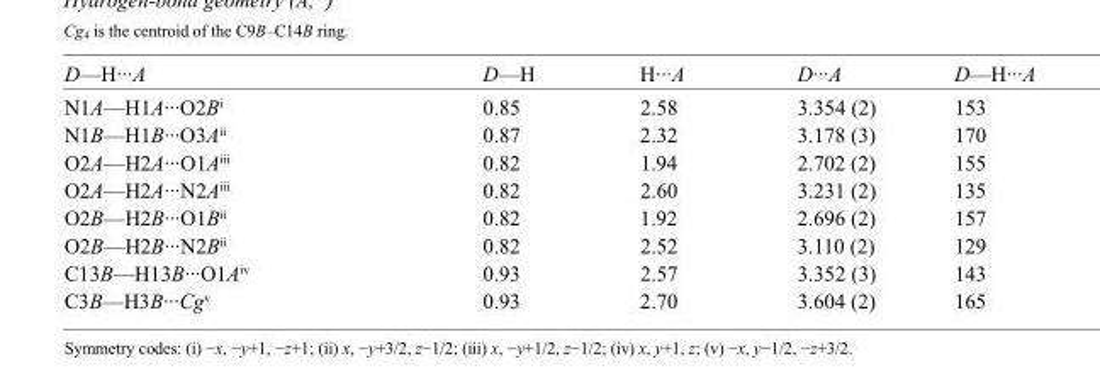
<table><tbody><tr><td>D—H···A</td><td>D—H</td><td>H···A</td><td>D···A</td><td>D—H···A</td></tr><tr><td>N1A—H1A···O2B<sup>i</sup></td><td>0.85</td><td>2.58</td><td>3.354 (2)</td><td>153</td></tr><tr><td>N1B—H1B···O3A<sup>ii</sup></td><td>0.87</td><td>2.32</td><td>3.178 (3)</td><td>170</td></tr><tr><td>O2A—H2A···O1A<sup>iii</sup></td><td>0.82</td><td>1.94</td><td>2.702 (2)</td><td>155</td></tr><tr><td>O2A—H2A···N2A<sup>iii</sup></td><td>0.82</td><td>2.60</td><td>3.231 (2)</td><td>135</td></tr><tr><td>O2B—H2B···O1B<sup>ii</sup></td><td>0.82</td><td>1.92</td><td>2.696 (2)</td><td>157</td></tr><tr><td>O2B—H2B···N2B<sup>ii</sup></td><td>0.82</td><td>2.52</td><td>3.110 (2)</td><td>129</td></tr><tr><td>C13B—H13B···O1A<sup>iv</sup></td><td>0.93</td><td>2.57</td><td>3.352 (3)</td><td>143</td></tr><tr><td>C3B—H3B···Cg<sup>v</sup></td><td>0.93</td><td>2.70</td><td>3.604 (2)</td><td>165</td></tr></tbody></table>